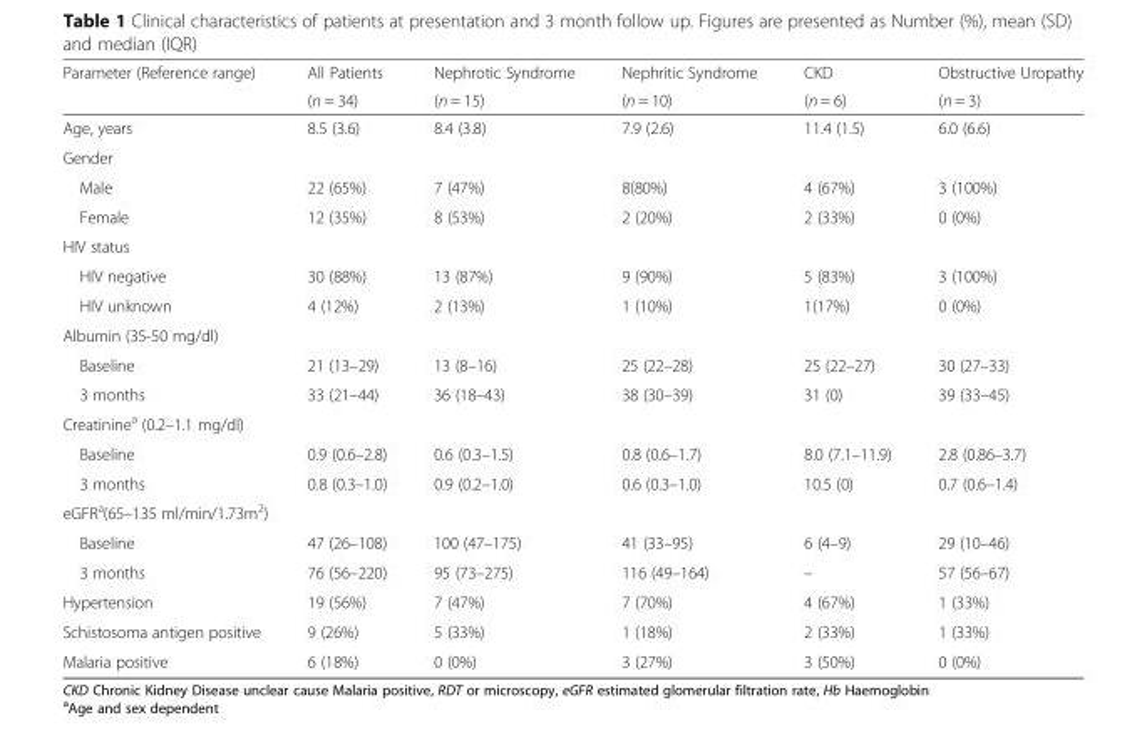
<table><thead><tr><td rowspan="2">Parameter (Reference range)</td><td rowspan="2">All Patients (n = 34)</td><td rowspan="2">Nephrotic Syndrome (n = 15)</td><td rowspan="2">Nephritic Syndrome (n = 10)</td><td rowspan="2">CKD (n = 6)</td><td rowspan="2">Obstructive Uropathy (n = 3)</td></tr><tr></tr></thead><tbody><tr><td>Age, years</td><td>8.5 (3.6)</td><td>8.4 (3.8)</td><td>7.9 (2.6)</td><td>11.4 (1.5)</td><td>6.0 (6.6)</td></tr><tr><td colspan="6">Gender</td></tr><tr><td>Male</td><td>22 (65%)</td><td>7 (47%)</td><td>8(80%)</td><td>4 (67%)</td><td>3 (100%)</td></tr><tr><td>Female</td><td>12 (35%)</td><td>8 (53%)</td><td>2 (20%)</td><td>2 (33%)</td><td>0 (0%)</td></tr><tr><td colspan="6">HIV status</td></tr><tr><td>HIV negative</td><td>30 (88%)</td><td>13 (87%)</td><td>9 (90%)</td><td>5 (83%)</td><td>3 (100%)</td></tr><tr><td>HIV unknown</td><td>4 (12%)</td><td>2 (13%)</td><td>1 (10%)</td><td>1(17%)</td><td>0 (0%)</td></tr><tr><td colspan="6">Albumin (35-50 mg/dl)</td></tr><tr><td>Baseline</td><td>21 (13–29)</td><td>13 (8–16)</td><td>25 (22–28)</td><td>25 (22–27)</td><td>30 (27–33)</td></tr><tr><td>3 months</td><td>33 (21–44)</td><td>36 (18–43)</td><td>38 (30–39)</td><td>31 (0)</td><td>39 (33–45)</td></tr><tr><td colspan="6">Creatinine<sup>a</sup> (0.2–1.1 mg/dl)</td></tr><tr><td>Baseline</td><td>0.9 (0.6–2.8)</td><td>0.6 (0.3–1.5)</td><td>0.8 (0.6–1.7)</td><td>8.0 (7.1–11.9)</td><td>2.8 (0.86–3.7)</td></tr><tr><td>3 months</td><td>0.8 (0.3–1.0)</td><td>0.9 (0.2–1.0)</td><td>0.6 (0.3–1.0)</td><td>10.5 (0)</td><td>0.7 (0.6–1.4)</td></tr><tr><td colspan="6">eGFR<sup>a</sup>(65–135 ml/min/1.73m<sup>2</sup>)</td></tr><tr><td>Baseline</td><td>47 (26–108)</td><td>100 (47–175)</td><td>41 (33–95)</td><td>6 (4–9)</td><td>29 (10–46)</td></tr><tr><td>3 months</td><td>76 (56–220)</td><td>95 (73–275)</td><td>116 (49–164)</td><td>–</td><td>57 (56–67)</td></tr><tr><td>Hypertension</td><td>19 (56%)</td><td>7 (47%)</td><td>7 (70%)</td><td>4 (67%)</td><td>1 (33%)</td></tr><tr><td>Schistosoma antigen positive</td><td>9 (26%)</td><td>5 (33%)</td><td>1 (18%)</td><td>2 (33%)</td><td>1 (33%)</td></tr><tr><td>Malaria positive</td><td>6 (18%)</td><td>0 (0%)</td><td>3 (27%)</td><td>3 (50%)</td><td>0 (0%)</td></tr></tbody></table>